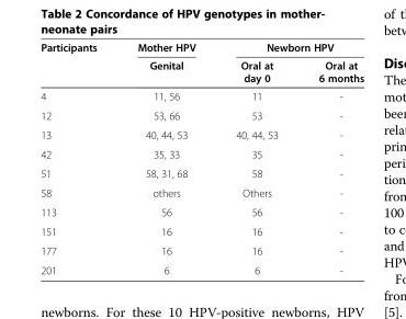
<table><thead><tr><td rowspan="2">Participants</td><td rowspan="2">Mother HPV Genital</td><td colspan="2">Newborn HPV</td></tr><tr><td>Oral at day 0</td><td>Oral at 6 months</td></tr></thead><tbody><tr><td>4</td><td>11, 56</td><td>11</td><td>-</td></tr><tr><td>12</td><td>53, 66</td><td>53</td><td>-</td></tr><tr><td>13</td><td>40, 44, 53</td><td>40, 44, 53</td><td>-</td></tr><tr><td>42</td><td>35, 33</td><td>35</td><td>-</td></tr><tr><td>51</td><td>58, 31, 68</td><td>58</td><td>-</td></tr><tr><td>58</td><td>others</td><td>Others</td><td>-</td></tr><tr><td>113</td><td>56</td><td>56</td><td>-</td></tr><tr><td>151</td><td>16</td><td>16</td><td>-</td></tr><tr><td>177</td><td>16</td><td>16</td><td>-</td></tr><tr><td>201</td><td>6</td><td>6</td><td>-</td></tr></tbody></table>